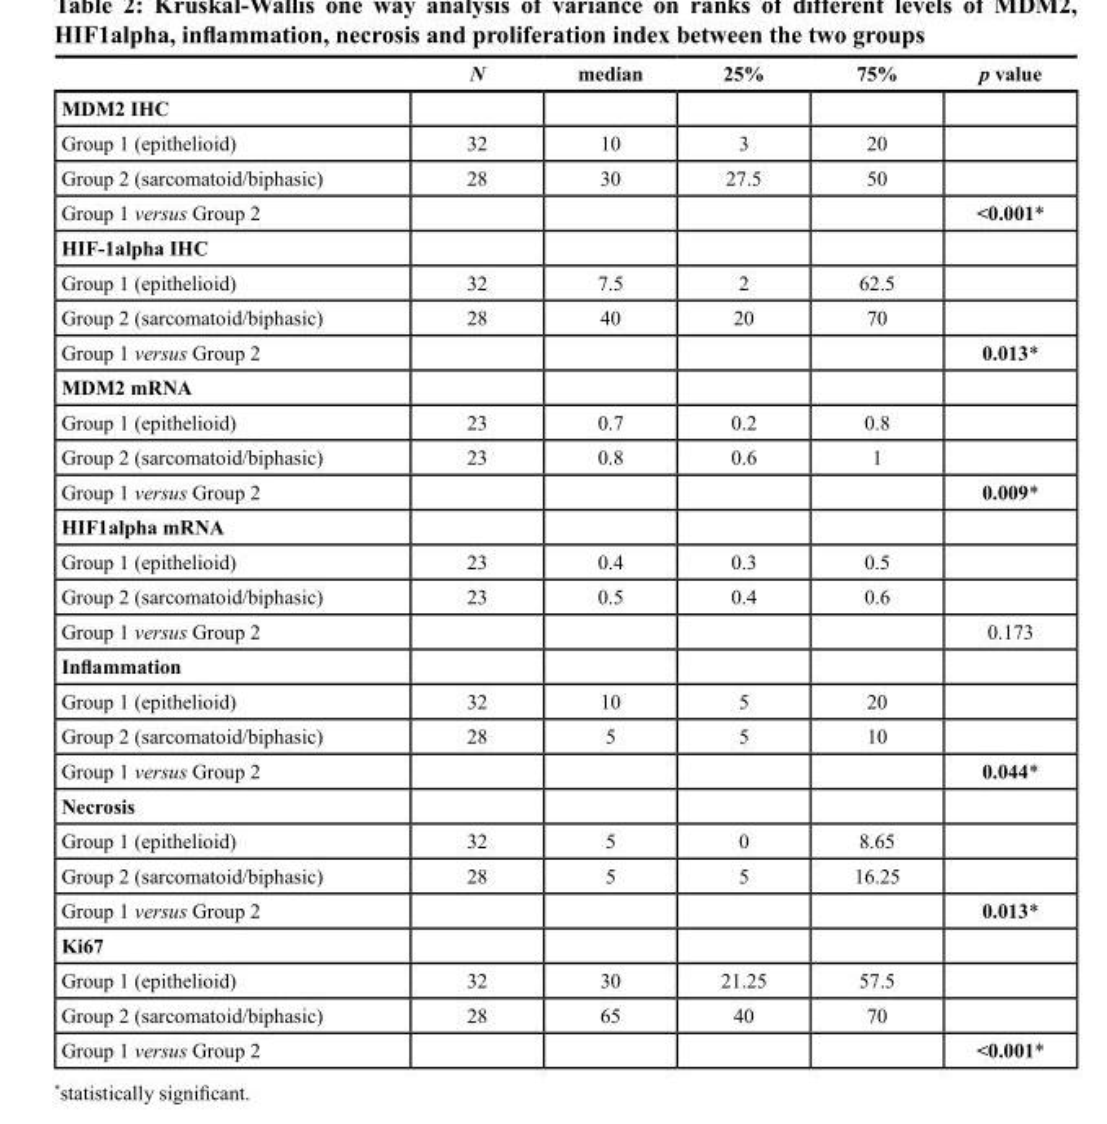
<table><thead><tr><td></td><td>N</td><td>median</td><td>25%</td><td>75%</td><td>p value</td></tr></thead><tbody><tr><td colspan="6">MDM2 IHC</td></tr><tr><td>Group 1 (epithelioid)</td><td>32</td><td>10</td><td>3</td><td>20</td><td></td></tr><tr><td>Group 2 (sarcomatoid/biphasic)</td><td>28</td><td>30</td><td>27.5</td><td>50</td><td></td></tr><tr><td>Group 1 versus Group 2</td><td></td><td></td><td></td><td></td><td>&lt;0.001*</td></tr><tr><td colspan="6">HIF-1alpha IHC</td></tr><tr><td>Group 1 (epithelioid)</td><td>32</td><td>7.5</td><td>2</td><td>62.5</td><td></td></tr><tr><td>Group 2 (sarcomatoid/biphasic)</td><td>28</td><td>40</td><td>20</td><td>70</td><td></td></tr><tr><td>Group 1 versus Group 2</td><td></td><td></td><td></td><td></td><td>0.013*</td></tr><tr><td colspan="6">MDM2 mRNA</td></tr><tr><td>Group 1 (epithelioid)</td><td>23</td><td>0.7</td><td>0.2</td><td>0.8</td><td></td></tr><tr><td>Group 2 (sarcomatoid/biphasic)</td><td>23</td><td>0.8</td><td>0.6</td><td>1</td><td></td></tr><tr><td>Group 1 versus Group 2</td><td></td><td></td><td></td><td></td><td>0.009*</td></tr><tr><td colspan="6">HIF1alpha mRNA</td></tr><tr><td>Group 1 (epithelioid)</td><td>23</td><td>0.4</td><td>0.3</td><td>0.5</td><td></td></tr><tr><td>Group 2 (sarcomatoid/biphasic)</td><td>23</td><td>0.5</td><td>0.4</td><td>0.6</td><td></td></tr><tr><td>Group 1 versus Group 2</td><td></td><td></td><td></td><td></td><td>0.173</td></tr><tr><td colspan="6">Inflammation</td></tr><tr><td>Group 1 (epithelioid)</td><td>32</td><td>10</td><td>5</td><td>20</td><td></td></tr><tr><td>Group 2 (sarcomatoid/biphasic)</td><td>28</td><td>5</td><td>5</td><td>10</td><td></td></tr><tr><td>Group 1 versus Group 2</td><td></td><td></td><td></td><td></td><td>0.044*</td></tr><tr><td colspan="6">Necrosis</td></tr><tr><td>Group 1 (epithelioid)</td><td>32</td><td>5</td><td>0</td><td>8.65</td><td></td></tr><tr><td>Group 2 (sarcomatoid/biphasic)</td><td>28</td><td>5</td><td>5</td><td>16.25</td><td></td></tr><tr><td>Group 1 versus Group 2</td><td></td><td></td><td></td><td></td><td>0.013*</td></tr><tr><td colspan="6">Ki67</td></tr><tr><td>Group 1 (epithelioid)</td><td>32</td><td>30</td><td>21.25</td><td>57.5</td><td></td></tr><tr><td>Group 2 (sarcomatoid/biphasic)</td><td>28</td><td>65</td><td>40</td><td>70</td><td></td></tr><tr><td>Group 1 versus Group 2</td><td></td><td></td><td></td><td></td><td>&lt;0.001*</td></tr></tbody></table>